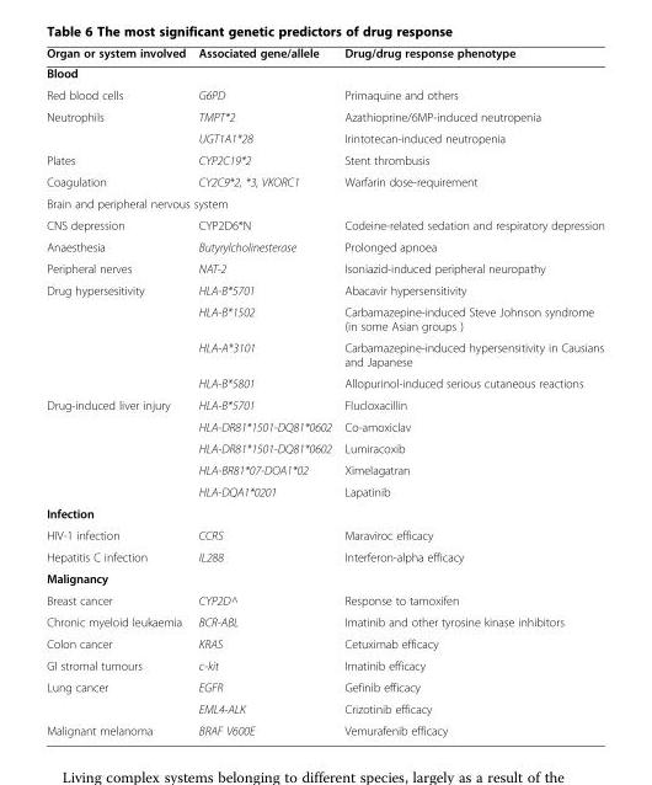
<table><thead><tr><td>Organ or system involved</td><td>Associated gene/allele</td><td>Drug/drug response phenotype</td></tr></thead><tbody><tr><td colspan="3">Blood</td></tr><tr><td>Red blood cells</td><td>G6PD</td><td>Primaquine and others</td></tr><tr><td rowspan="2">Neutrophils</td><td>TMPT*2</td><td>Azathioprine/6MP-induced neutropenia</td></tr><tr><td>UGT1A1*28</td><td>Irintotecan-induced neutropenia</td></tr><tr><td>Plates</td><td>CYP2C19*2</td><td>Stent thrombusis</td></tr><tr><td>Coagulation</td><td>CY2C9*2, *3, VKORC1</td><td>Warfarin dose-requirement</td></tr><tr><td colspan="3">Brain and peripheral nervous system</td></tr><tr><td>CNS depression</td><td>CYP2D6*N</td><td>Codeine-related sedation and respiratory depression</td></tr><tr><td>Anaesthesia</td><td>Butyrylcholinesterase</td><td>Prolonged apnoea</td></tr><tr><td>Peripheral nerves</td><td>NAT-2</td><td>Isoniazid-induced peripheral neuropathy</td></tr><tr><td rowspan="4">Drug hypersesitivity</td><td>HLA-B*5701</td><td>Abacavir hypersensitivity</td></tr><tr><td>HLA-B*1502</td><td>Carbamazepine-induced Steve Johnson syndrome (in some Asian groups )</td></tr><tr><td>HLA-A*3101</td><td>Carbamazepine-induced hypersensitivity in Causians and Japanese</td></tr><tr><td>HLA-B*5801</td><td>Allopurinol-induced serious cutaneous reactions</td></tr><tr><td rowspan="5">Drug-induced liver injury</td><td>HLA-B*5701</td><td>Flucloxacillin</td></tr><tr><td>HLA-DR81*1501-DQ81*0602</td><td>Co-amoxiclav</td></tr><tr><td>HLA-DR81*1501-DQ81*0602</td><td>Lumiracoxib</td></tr><tr><td>HLA-BR81*07-DOA1*02</td><td>Ximelagatran</td></tr><tr><td>HLA-DQA1*0201</td><td>Lapatinib</td></tr><tr><td colspan="3">Infection</td></tr><tr><td>HIV-1 infection</td><td>CCRS</td><td>Maraviroc efficacy</td></tr><tr><td>Hepatitis C infection</td><td>IL288</td><td>Interferon-alpha efficacy</td></tr><tr><td colspan="3">Malignancy</td></tr><tr><td>Breast cancer</td><td>CYP2D^</td><td>Response to tamoxifen</td></tr><tr><td>Chronic myeloid leukaemia</td><td>BCR-ABL</td><td>Imatinib and other tyrosine kinase inhibitors</td></tr><tr><td>Colon cancer</td><td>KRAS</td><td>Cetuximab efficacy</td></tr><tr><td>GI stromal tumours</td><td>c-kit</td><td>Imatinib efficacy</td></tr><tr><td rowspan="2">Lung cancer</td><td>EGFR</td><td>Gefinib efficacy</td></tr><tr><td>EML4-ALK</td><td>Crizotinib efficacy</td></tr><tr><td>Malignant melanoma</td><td>BRAF V600E</td><td>Vemurafenib efficacy</td></tr></tbody></table>